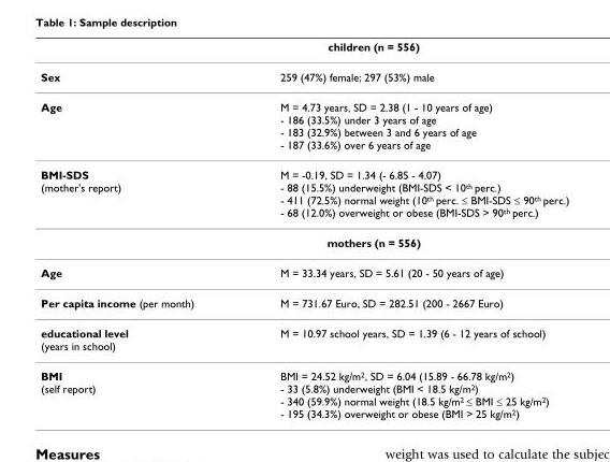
<table><thead><tr><td colspan="2">children (n = 556)</td></tr><tr><td>Sex</td><td>259 (47%) female; 297 (53%) male</td></tr></thead><tbody><tr><td>Age</td><td>M = 4.73 years, SD = 2.38 (1 - 10 years of age) - 186 (33.5%) under 3 years of age - 183 (32.9%) between 3 and 6 years of age - 187 (33.6%) over 6 years of age</td></tr><tr><td>BMI-SDS (mother&#x27;s report)</td><td>M = -0.19, SD = 1.34 (- 6.85 - 4.07) - 88 (15.5%) underweight (BMI-SDS &lt; 10<sup>th</sup> perc.) - 411 (72.5%) normal weight (10<sup>th</sup> perc. ≤ BMI-SDS ≤ 90<sup>th</sup> perc.) - 68 (12.0%) overweight or obese (BMI-SDS &gt; 90<sup>th</sup> perc.)</td></tr><tr><td colspan="2">mothers (n = 556)</td></tr><tr><td>Age</td><td>M = 33.34 years, SD = 5.61 (20 - 50 years of age)</td></tr><tr><td>Per capita income (per month)</td><td>M = 731.67 Euro, SD = 282.51 (200 - 2667 Euro)</td></tr><tr><td>educational level (years in school)</td><td>M = 10.97 school years, SD = 1.39 (6 - 12 years of school)</td></tr><tr><td>BMI (self report)</td><td>BMI = 24.52 kg/m<sup>2</sup>, SD = 6.04 (15.89 - 66.78 kg/m<sup>2</sup>) - 33 (5.8%) underweight (BMI &lt; 18.5 kg/m<sup>2</sup>) - 340 (59.9%) normal weight (18.5 kg/m<sup>2</sup> ≤ BMI ≤ 25 kg/m<sup>2</sup>) - 195 (34.3%) overweight or obese (BMI &gt; 25 kg/m<sup>2</sup>)</td></tr></tbody></table>